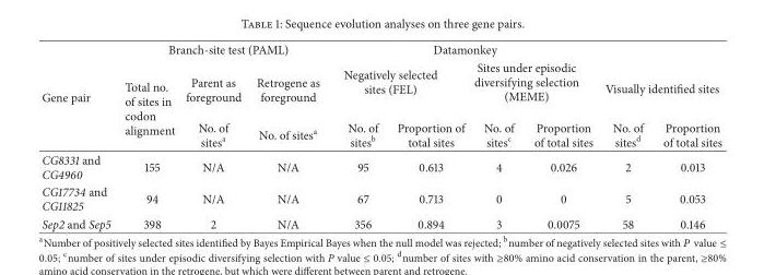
<table><thead><tr><td rowspan="3">Gene pair</td><td colspan="3">Branch-site test (PAML)</td><td colspan="4">Datamonkey</td><td></td><td></td></tr><tr><td rowspan="2">Total no. of sites in codon alignment</td><td rowspan="2">Parent as foreground No. of sites<sup>a</sup></td><td rowspan="2">Retrogene as foreground No. of sites<sup>a</sup></td><td colspan="2">Negatively selected sites (FEL)</td><td colspan="2">Sites under episodic diversifying selection (MEME)</td><td colspan="2">Visually identified sites</td></tr><tr><td>No. of sites<sup>b</sup></td><td>Proportion of total sites</td><td>No. of sites<sup>c</sup></td><td>Proportion of total sites</td><td>No. of sites<sup>d</sup></td><td>Proportion of total sites</td></tr></thead><tbody><tr><td>CG8331 and CG4960</td><td>155</td><td>N/A</td><td>N/A</td><td>95</td><td>0.613</td><td>4</td><td>0.026</td><td>2</td><td>0.013</td></tr><tr><td>CG17734 and CG11825</td><td>94</td><td>N/A</td><td>N/A</td><td>67</td><td>0.713</td><td>0</td><td>0</td><td>5</td><td>0.053</td></tr><tr><td>Sep2 and Sep5</td><td>398</td><td>2</td><td>N/A</td><td>356</td><td>0.894</td><td>3</td><td>0.0075</td><td>58</td><td>0.146</td></tr></tbody></table>